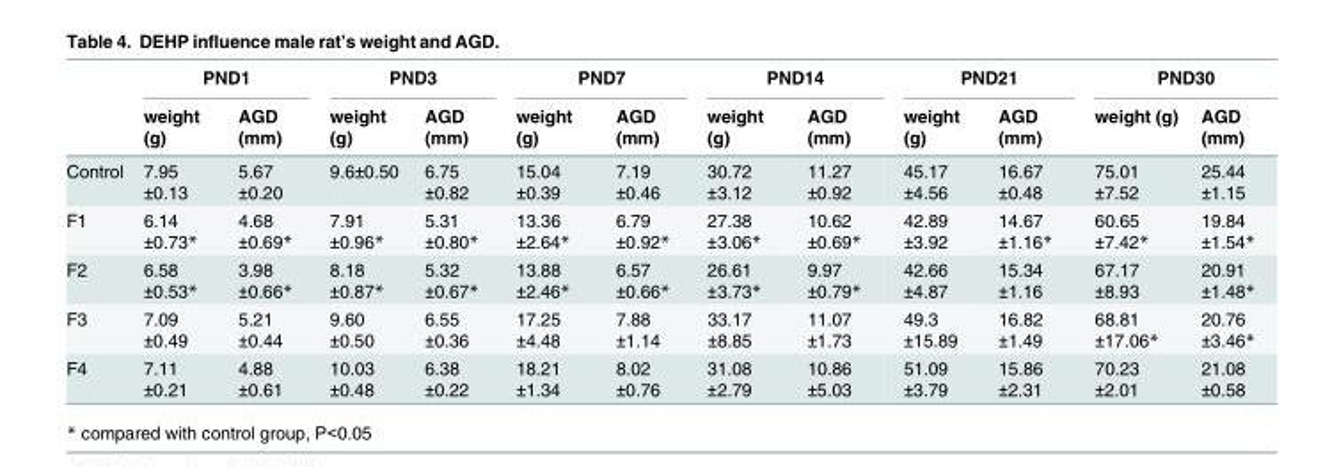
<table><thead><tr><td rowspan="2"></td><td colspan="2">PND1</td><td colspan="2">PND3</td><td colspan="2">PND7</td><td colspan="2">PND14</td><td colspan="2">PND21</td><td colspan="2">PND30</td></tr><tr><td>weight (g)</td><td>AGD (mm)</td><td>weight (g)</td><td>AGD (mm)</td><td>weight (g)</td><td>AGD (mm)</td><td>weight (g)</td><td>AGD (mm)</td><td>weight (g)</td><td>AGD (mm)</td><td>weight (g)</td><td>AGD (mm)</td></tr></thead><tbody><tr><td>Control</td><td>7.95 ±0.13</td><td>5.67 ±0.20</td><td>9.6±0.50</td><td>6.75 ±0.82</td><td>15.04 ±0.39</td><td>7.19 ±0.46</td><td>30.72 ±3.12</td><td>11.27 ±0.92</td><td>45.17 ±4.56</td><td>16.67 ±0.48</td><td>75.01 ±7.52</td><td>25.44 ±1.15</td></tr><tr><td>F1</td><td>6.14 ±0.73*</td><td>4.68 ±0.69*</td><td>7.91 ±0.96*</td><td>5.31 ±0.80*</td><td>13.36 ±2.64*</td><td>6.79 ±0.92*</td><td>27.38 ±3.06*</td><td>10.62 ±0.69*</td><td>42.89 ±3.92</td><td>14.67 ±1.16*</td><td>60.65 ±7.42*</td><td>19.84 ±1.54*</td></tr><tr><td>F2</td><td>6.58 ±0.53*</td><td>3.98 ±0.66*</td><td>8.18 ±0.87*</td><td>5.32 ±0.67*</td><td>13.88 ±2.46*</td><td>6.57 ±0.66*</td><td>26.61 ±3.73*</td><td>9.97 ±0.79*</td><td>42.66 ±4.87</td><td>15.34 ±1.16</td><td>67.17 ±8.93</td><td>20.91 ±1.48*</td></tr><tr><td>F3</td><td>7.09 ±0.49</td><td>5.21 ±0.44</td><td>9.60 ±0.50</td><td>6.55 ±0.36</td><td>17.25 ±4.48</td><td>7.88 ±1.14</td><td>33.17 ±8.85</td><td>11.07 ±1.73</td><td>49.3 ±15.89</td><td>16.82 ±1.49</td><td>68.81 ±17.06*</td><td>20.76 ±3.46*</td></tr><tr><td>F4</td><td>7.11 ±0.21</td><td>4.88 ±0.61</td><td>10.03 ±0.48</td><td>6.38 ±0.22</td><td>18.21 ±1.34</td><td>8.02 ±0.76</td><td>31.08 ±2.79</td><td>10.86 ±5.03</td><td>51.09 ±3.79</td><td>15.86 ±2.31</td><td>70.23 ±2.01</td><td>21.08 ±0.58</td></tr></tbody></table>